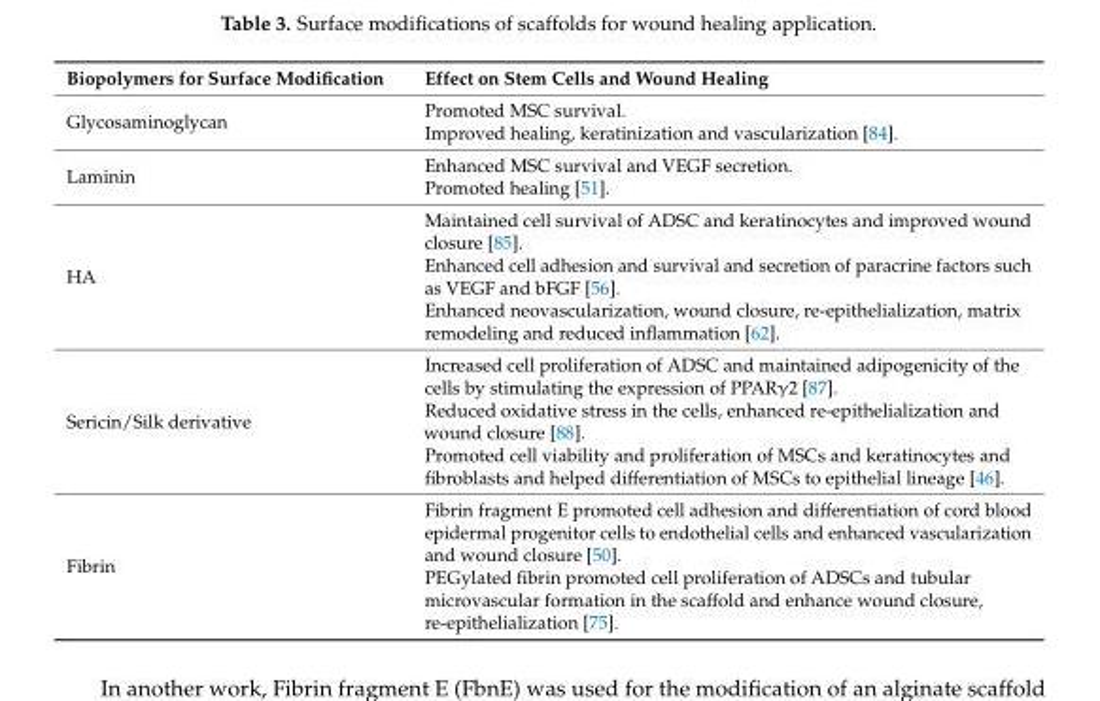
<table><thead><tr><td>Biopolymers for Surface Modification</td><td>Effect on Stem Cells and Wound Healing</td></tr></thead><tbody><tr><td>Glycosaminoglycan</td><td>Promoted MSC survival. Improved healing, keratinization and vascularization [84].</td></tr><tr><td>Laminin</td><td>Enhanced MSC survival and VEGF secretion. Promoted healing [51].</td></tr><tr><td>HA</td><td>Maintained cell survival of ADSC and keratinocytes and improved wound closure [85]. Enhanced cell adhesion and survival and secretion of paracrine factors such as VEGF and bFGF [56]. Enhanced neovascularization, wound closure, re-epithelialization, matrix remodeling and reduced inflammation [62].</td></tr><tr><td>Sericin/Silk derivative</td><td>Increased cell proliferation of ADSC and maintained adipogenicity of the cells by stimulating the expression of PPARγ2 [87]. Reduced oxidative stress in the cells, enhanced re-epithelialization and wound closure [88]. Promoted cell viability and proliferation of MSCs and keratinocytes and fibroblasts and helped differentiation of MSCs to epithelial lineage [46].</td></tr><tr><td>Fibrin</td><td>Fibrin fragment E promoted cell adhesion and differentiation of cord blood epidermal progenitor cells to endothelial cells and enhanced vascularization and wound closure [50]. PEGylated fibrin promoted cell proliferation of ADSCs and tubular microvascular formation in the scaffold and enhance wound closure, re-epithelialization [75].</td></tr></tbody></table>